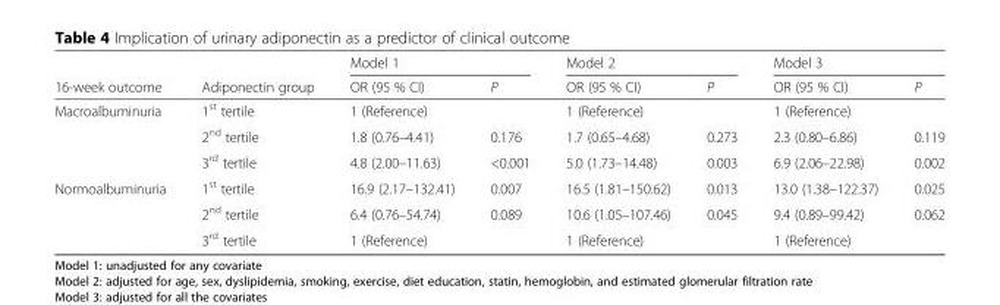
<table><thead><tr><td rowspan="2">16-week outcome</td><td rowspan="2">Adiponectin group</td><td colspan="2">Model 1</td><td colspan="2">Model 2</td><td colspan="2">Model 3</td></tr><tr><td>OR (95 % CI)</td><td>P</td><td>OR (95 % CI)</td><td>P</td><td>OR (95 % CI)</td><td>P</td></tr></thead><tbody><tr><td rowspan="3">Macroalbuminuria</td><td>1<sup>st</sup> tertile</td><td>1 (Reference)</td><td></td><td>1 (Reference)</td><td></td><td>1 (Reference)</td><td></td></tr><tr><td>2<sup>nd</sup> tertile</td><td>1.8 (0.76–4.41)</td><td>0.176</td><td>1.7 (0.65–4.68)</td><td>0.273</td><td>2.3 (0.80–6.86)</td><td>0.119</td></tr><tr><td>3<sup>rd</sup> tertile</td><td>4.8 (2.00–11.63)</td><td>&lt;0.001</td><td>5.0 (1.73–14.48)</td><td>0.003</td><td>6.9 (2.06–22.98)</td><td>0.002</td></tr><tr><td rowspan="3">Normoalbuminuria</td><td>1<sup>st</sup> tertile</td><td>16.9 (2.17–132.41)</td><td>0.007</td><td>16.5 (1.81–150.62)</td><td>0.013</td><td>13.0 (1.38–122.37)</td><td>0.025</td></tr><tr><td>2<sup>nd</sup> tertile</td><td>6.4 (0.76–54.74)</td><td>0.089</td><td>10.6 (1.05–107.46)</td><td>0.045</td><td>9.4 (0.89–99.42)</td><td>0.062</td></tr><tr><td>3<sup>rd</sup> tertile</td><td>1 (Reference)</td><td></td><td>1 (Reference)</td><td></td><td>1 (Reference)</td><td></td></tr></tbody></table>